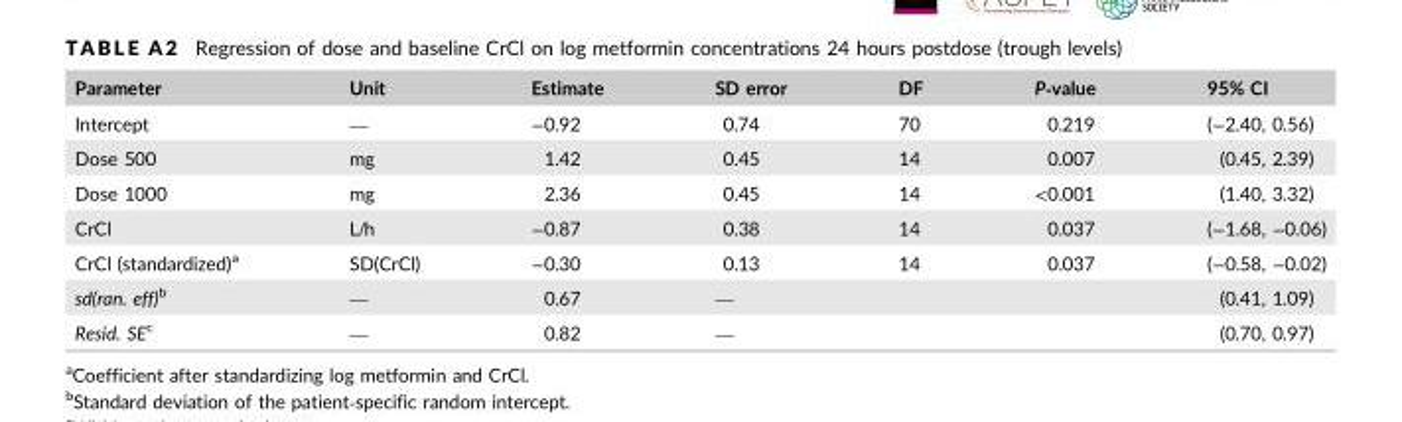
<table><thead><tr><td>Parameter</td><td>Unit</td><td>Estimate</td><td>SD error</td><td>DF</td><td>P‐value</td><td>95% CI</td></tr></thead><tbody><tr><td>Intercept</td><td>—</td><td>−0.92</td><td>0.74</td><td>70</td><td>0.219</td><td>(−2.40, 0.56)</td></tr><tr><td>Dose 500</td><td>mg</td><td>1.42</td><td>0.45</td><td>14</td><td>0.007</td><td>(0.45, 2.39)</td></tr><tr><td>Dose 1000</td><td>mg</td><td>2.36</td><td>0.45</td><td>14</td><td>&lt;0.001</td><td>(1.40, 3.32)</td></tr><tr><td>CrCl</td><td>L/h</td><td>−0.87</td><td>0.38</td><td>14</td><td>0.037</td><td>(−1.68, −0.06)</td></tr><tr><td>CrCl (standardized)<sup>a</sup></td><td>SD(CrCl)</td><td>−0.30</td><td>0.13</td><td>14</td><td>0.037</td><td>(−0.58, −0.02)</td></tr><tr><td>sd(ran. eff)b</td><td>—</td><td>0.67</td><td>—</td><td></td><td></td><td>(0.41, 1.09)</td></tr><tr><td>Resid. SEc</td><td>—</td><td>0.82</td><td>—</td><td></td><td></td><td>(0.70, 0.97)</td></tr></tbody></table>